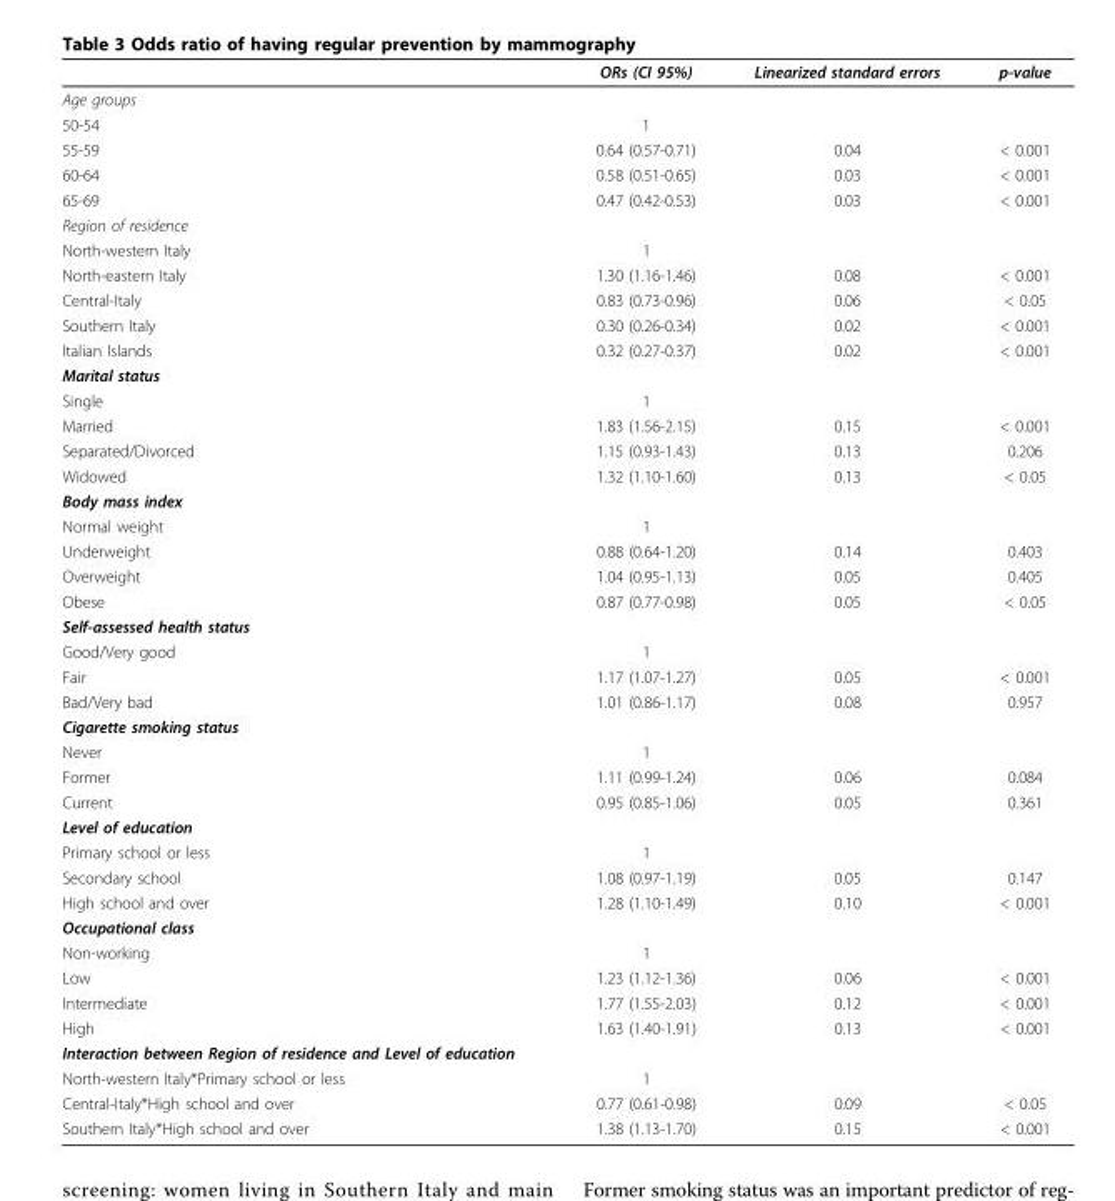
<table><thead><tr><td></td><td>ORs (CI 95%)</td><td>Linearized standard errors</td><td>p-value</td></tr></thead><tbody><tr><td colspan="4">Age groups</td></tr><tr><td>50-54</td><td>1</td><td></td><td></td></tr><tr><td>55-59</td><td>0.64 (0.57-0.71)</td><td>0.04</td><td>&lt; 0.001</td></tr><tr><td>60-64</td><td>0.58 (0.51-0.65)</td><td>0.03</td><td>&lt; 0.001</td></tr><tr><td>65-69</td><td>0.47 (0.42-0.53)</td><td>0.03</td><td>&lt; 0.001</td></tr><tr><td colspan="4">Region of residence</td></tr><tr><td>North-western Italy</td><td>1</td><td></td><td></td></tr><tr><td>North-eastern Italy</td><td>1.30 (1.16-1.46)</td><td>0.08</td><td>&lt; 0.001</td></tr><tr><td>Central-Italy</td><td>0.83 (0.73-0.96)</td><td>0.06</td><td>&lt; 0.05</td></tr><tr><td>Southern Italy</td><td>0.30 (0.26-0.34)</td><td>0.02</td><td>&lt; 0.001</td></tr><tr><td>Italian Islands</td><td>0.32 (0.27-0.37)</td><td>0.02</td><td>&lt; 0.001</td></tr><tr><td colspan="4">Marital status</td></tr><tr><td>Single</td><td>1</td><td></td><td></td></tr><tr><td>Married</td><td>1.83 (1.56-2.15)</td><td>0.15</td><td>&lt; 0.001</td></tr><tr><td>Separated/Divorced</td><td>1.15 (0.93-1.43)</td><td>0.13</td><td>0.206</td></tr><tr><td>Widowed</td><td>1.32 (1.10-1.60)</td><td>0.13</td><td>&lt; 0.05</td></tr><tr><td colspan="4">Body mass index</td></tr><tr><td>Normal weight</td><td>1</td><td></td><td></td></tr><tr><td>Underweight</td><td>0.88 (0.64-1.20)</td><td>0.14</td><td>0.403</td></tr><tr><td>Overweight</td><td>1.04 (0.95-1.13)</td><td>0.05</td><td>0.405</td></tr><tr><td>Obese</td><td>0.87 (0.77-0.98)</td><td>0.05</td><td>&lt; 0.05</td></tr><tr><td colspan="4">Self-assessed health status</td></tr><tr><td>Good/Very good</td><td>1</td><td></td><td></td></tr><tr><td>Fair</td><td>1.17 (1.07-1.27)</td><td>0.05</td><td>&lt; 0.001</td></tr><tr><td>Bad/Very bad</td><td>1.01 (0.86-1.17)</td><td>0.08</td><td>0.957</td></tr><tr><td colspan="4">Cigarette smoking status</td></tr><tr><td>Never</td><td>1</td><td></td><td></td></tr><tr><td>Former</td><td>1.11 (0.99-1.24)</td><td>0.06</td><td>0.084</td></tr><tr><td>Current</td><td>0.95 (0.85-1.06)</td><td>0.05</td><td>0.361</td></tr><tr><td colspan="4">Level of education</td></tr><tr><td>Primary school or less</td><td>1</td><td></td><td></td></tr><tr><td>Secondary school</td><td>1.08 (0.97-1.19)</td><td>0.05</td><td>0.147</td></tr><tr><td>High school and over</td><td>1.28 (1.10-1.49)</td><td>0.10</td><td>&lt; 0.001</td></tr><tr><td colspan="4">Occupational class</td></tr><tr><td>Non-working</td><td>1</td><td></td><td></td></tr><tr><td>Low</td><td>1.23 (1.12-1.36)</td><td>0.06</td><td>&lt; 0.001</td></tr><tr><td>Intermediate</td><td>1.77 (1.55-2.03)</td><td>0.12</td><td>&lt; 0.001</td></tr><tr><td>High</td><td>1.63 (1.40-1.91)</td><td>0.13</td><td>&lt; 0.001</td></tr><tr><td colspan="4">Interaction between Region of residence and Level of education</td></tr><tr><td>North-western Italy*Primary school or less</td><td>1</td><td></td><td></td></tr><tr><td>Central-Italy*High school and over</td><td>0.77 (0.61-0.98)</td><td>0.09</td><td>&lt; 0.05</td></tr><tr><td>Southern Italy*High school and over</td><td>1.38 (1.13-1.70)</td><td>0.15</td><td>&lt; 0.001</td></tr></tbody></table>